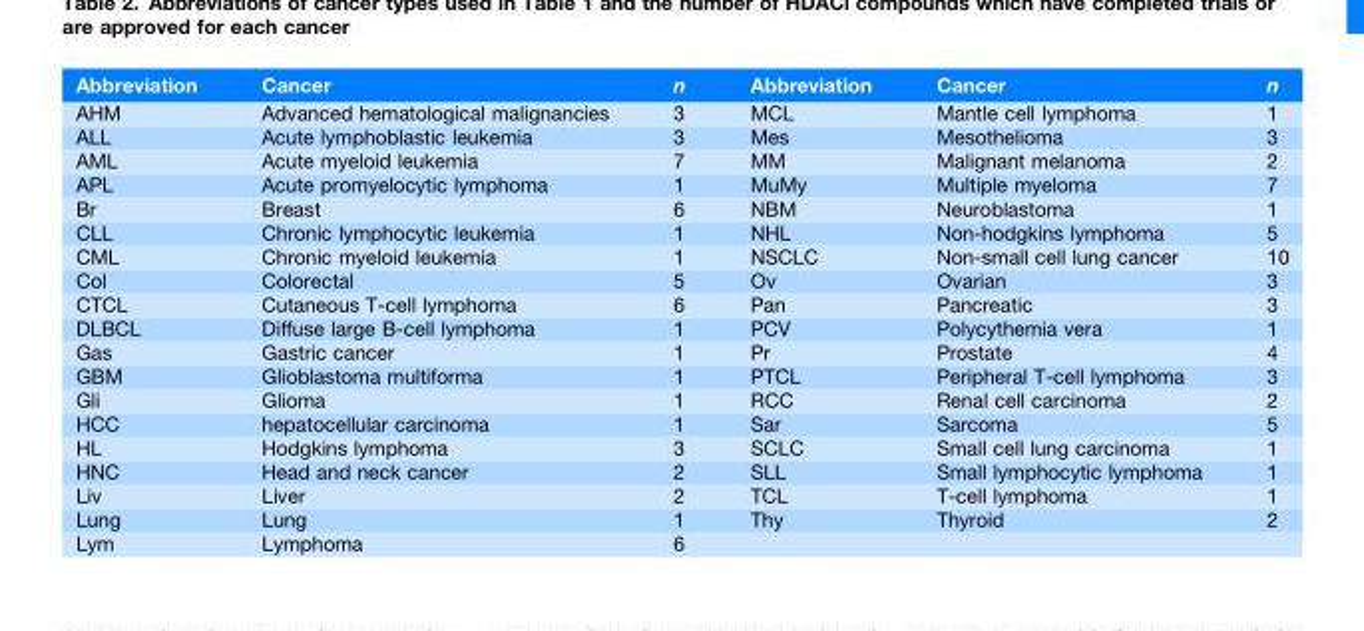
<table><thead><tr><td>Abbreviation</td><td>Cancer</td><td>n</td><td>Abbreviation</td><td>Cancer</td><td>n</td></tr></thead><tbody><tr><td>AHM</td><td>Advanced hematological malignancies</td><td>3</td><td>MCL</td><td>Mantle cell lymphoma</td><td>1</td></tr><tr><td>ALL</td><td>Acute lymphoblastic leukemia</td><td>3</td><td>Mes</td><td>Mesothelioma</td><td>3</td></tr><tr><td>AML</td><td>Acute myeloid leukemia</td><td>7</td><td>MM</td><td>Malignant melanoma</td><td>2</td></tr><tr><td>APL</td><td>Acute promyelocytic lymphoma</td><td>1</td><td>MuMy</td><td>Multiple myeloma</td><td>7</td></tr><tr><td>Br</td><td>Breast</td><td>6</td><td>NBM</td><td>Neuroblastoma</td><td>1</td></tr><tr><td>CLL</td><td>Chronic lymphocytic leukemia</td><td>1</td><td>NHL</td><td>Non-hodgkins lymphoma</td><td>5</td></tr><tr><td>CML</td><td>Chronic myeloid leukemia</td><td>1</td><td>NSCLC</td><td>Non-small cell lung cancer</td><td>10</td></tr><tr><td>Col</td><td>Colorectal</td><td>5</td><td>Ov</td><td>Ovarian</td><td>3</td></tr><tr><td>CTCL</td><td>Cutaneous T-cell lymphoma</td><td>6</td><td>Pan</td><td>Pancreatic</td><td>3</td></tr><tr><td>DLBCL</td><td>Diffuse large B-cell lymphoma</td><td>1</td><td>PCV</td><td>Polycythemia vera</td><td>1</td></tr><tr><td>Gas</td><td>Gastric cancer</td><td>1</td><td>Pr</td><td>Prostate</td><td>4</td></tr><tr><td>GBM</td><td>Glioblastoma multiforma</td><td>1</td><td>PTCL</td><td>Peripheral T-cell lymphoma</td><td>3</td></tr><tr><td>Gli</td><td>Glioma</td><td>1</td><td>RCC</td><td>Renal cell carcinoma</td><td>2</td></tr><tr><td>HCC</td><td>hepatocellular carcinoma</td><td>1</td><td>Sar</td><td>Sarcoma</td><td>5</td></tr><tr><td>HL</td><td>Hodgkins lymphoma</td><td>3</td><td>SCLC</td><td>Small cell lung carcinoma</td><td>1</td></tr><tr><td>HNC</td><td>Head and neck cancer</td><td>2</td><td>SLL</td><td>Small lymphocytic lymphoma</td><td>1</td></tr><tr><td>Liv</td><td>Liver</td><td>2</td><td>TCL</td><td>T-cell lymphoma</td><td>1</td></tr><tr><td>Lung</td><td>Lung</td><td>1</td><td>Thy</td><td>Thyroid</td><td>2</td></tr><tr><td>Lym</td><td>Lymphoma</td><td>6</td><td></td><td></td><td></td></tr></tbody></table>